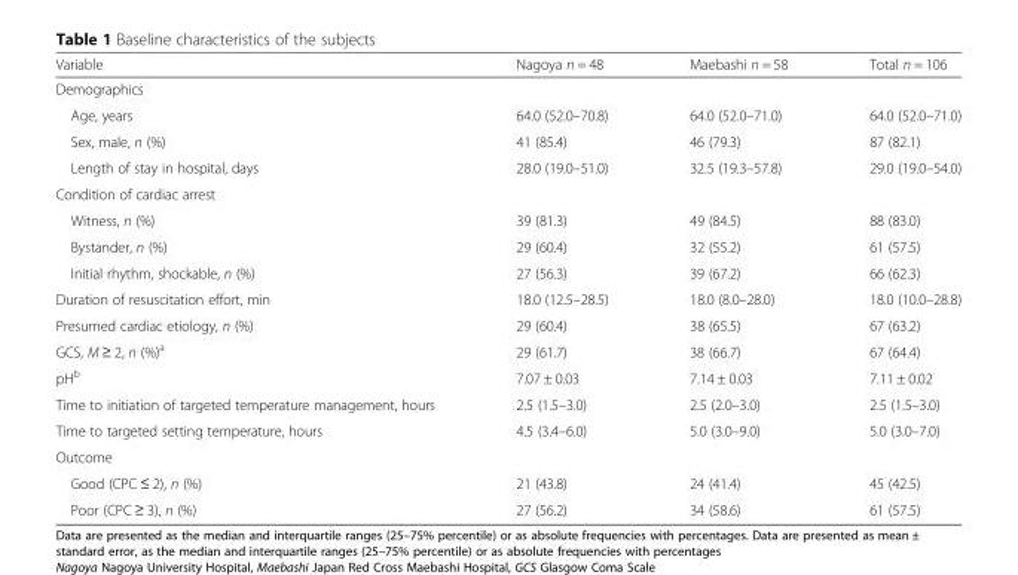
<table><thead><tr><td>Variable</td><td>Nagoya n = 48</td><td>Maebashi n = 58</td><td>Total n = 106</td></tr></thead><tbody><tr><td colspan="4">Demographics</td></tr><tr><td>Age, years</td><td>64.0 (52.0–70.8)</td><td>64.0 (52.0–71.0)</td><td>64.0 (52.0–71.0)</td></tr><tr><td>Sex, male, n (%)</td><td>41 (85.4)</td><td>46 (79.3)</td><td>87 (82.1)</td></tr><tr><td>Length of stay in hospital, days</td><td>28.0 (19.0–51.0)</td><td>32.5 (19.3–57.8)</td><td>29.0 (19.0–54.0)</td></tr><tr><td colspan="4">Condition of cardiac arrest</td></tr><tr><td>Witness, n (%)</td><td>39 (81.3)</td><td>49 (84.5)</td><td>88 (83.0)</td></tr><tr><td>Bystander, n (%)</td><td>29 (60.4)</td><td>32 (55.2)</td><td>61 (57.5)</td></tr><tr><td>Initial rhythm, shockable, n (%)</td><td>27 (56.3)</td><td>39 (67.2)</td><td>66 (62.3)</td></tr><tr><td>Duration of resuscitation effort, min</td><td>18.0 (12.5–28.5)</td><td>18.0 (8.0–28.0)</td><td>18.0 (10.0–28.8)</td></tr><tr><td>Presumed cardiac etiology, n (%)</td><td>29 (60.4)</td><td>38 (65.5)</td><td>67 (63.2)</td></tr><tr><td>GCS, M ≥ 2, n (%)<sup>a</sup></td><td>29 (61.7)</td><td>38 (66.7)</td><td>67 (64.4)</td></tr><tr><td>pH<sup>b</sup></td><td>7.07 ± 0.03</td><td>7.14 ± 0.03</td><td>7.11 ± 0.02</td></tr><tr><td>Time to initiation of targeted temperature management, hours</td><td>2.5 (1.5–3.0)</td><td>2.5 (2.0–3.0)</td><td>2.5 (1.5–3.0)</td></tr><tr><td>Time to targeted setting temperature, hours</td><td>4.5 (3.4–6.0)</td><td>5.0 (3.0–9.0)</td><td>5.0 (3.0–7.0)</td></tr><tr><td colspan="4">Outcome</td></tr><tr><td>Good (CPC ≤ 2), n (%)</td><td>21 (43.8)</td><td>24 (41.4)</td><td>45 (42.5)</td></tr><tr><td>Poor (CPC ≥ 3), n (%)</td><td>27 (56.2)</td><td>34 (58.6)</td><td>61 (57.5)</td></tr></tbody></table>